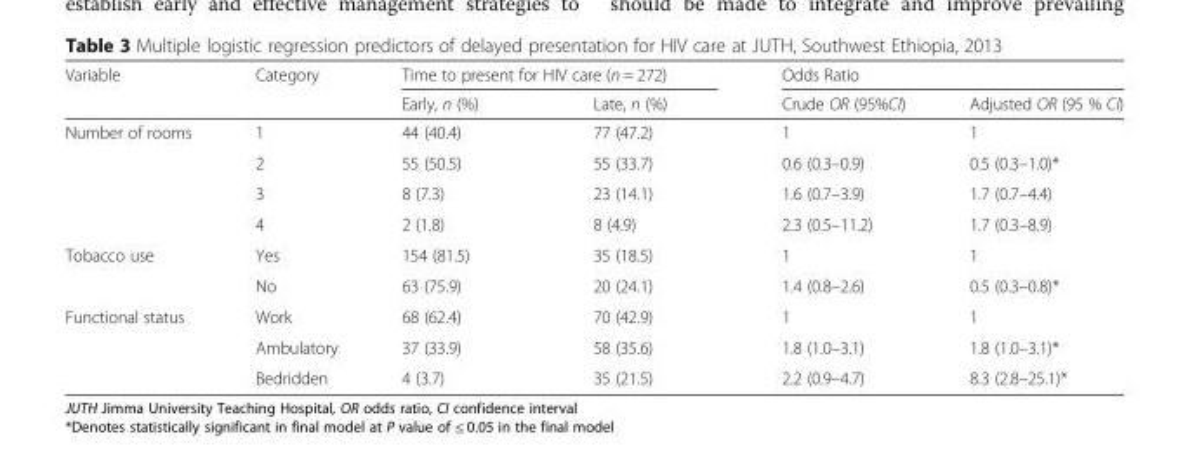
<table><thead><tr><td rowspan="2">Variable</td><td rowspan="2">Category</td><td colspan="2">Time to present for HIV care (n = 272)</td><td colspan="2">Odds Ratio</td></tr><tr><td>Early, n (%)</td><td>Late, n (%)</td><td>Crude OR (95%CI)</td><td>Adjusted OR (95 % CI)</td></tr></thead><tbody><tr><td rowspan="4">Number of rooms</td><td>1</td><td>44 (40.4)</td><td>77 (47.2)</td><td>1</td><td>1</td></tr><tr><td>2</td><td>55 (50.5)</td><td>55 (33.7)</td><td>0.6 (0.3–0.9)</td><td>0.5 (0.3–1.0)*</td></tr><tr><td>3</td><td>8 (7.3)</td><td>23 (14.1)</td><td>1.6 (0.7–3.9)</td><td>1.7 (0.7–4.4)</td></tr><tr><td>4</td><td>2 (1.8)</td><td>8 (4.9)</td><td>2.3 (0.5–11.2)</td><td>1.7 (0.3–8.9)</td></tr><tr><td rowspan="2">Tobacco use</td><td>Yes</td><td>154 (81.5)</td><td>35 (18.5)</td><td>1</td><td>1</td></tr><tr><td>No</td><td>63 (75.9)</td><td>20 (24.1)</td><td>1.4 (0.8–2.6)</td><td>0.5 (0.3–0.8)*</td></tr><tr><td rowspan="3">Functional status</td><td>Work</td><td>68 (62.4)</td><td>70 (42.9)</td><td>1</td><td>1</td></tr><tr><td>Ambulatory</td><td>37 (33.9)</td><td>58 (35.6)</td><td>1.8 (1.0–3.1)</td><td>1.8 (1.0–3.1)*</td></tr><tr><td>Bedridden</td><td>4 (3.7)</td><td>35 (21.5)</td><td>2.2 (0.9–4.7)</td><td>8.3 (2.8–25.1)*</td></tr></tbody></table>